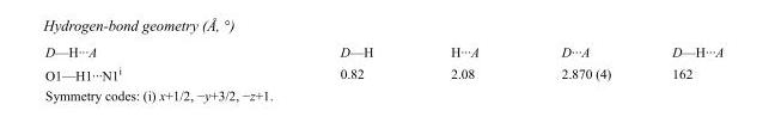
<table><tbody><tr><td>D—H···A</td><td>D—H</td><td>H···A</td><td>D···A</td><td>D—H···A</td></tr><tr><td>O1—H1···N1<sup>i</sup></td><td>0.82</td><td>2.08</td><td>2.870 (4)</td><td>162</td></tr></tbody></table>